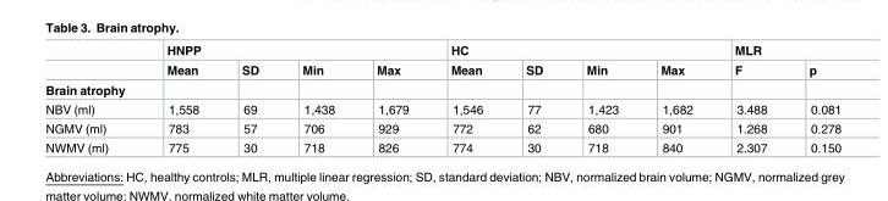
<table><thead><tr><td rowspan="2"></td><td colspan="4">HNPP</td><td colspan="4">HC</td><td colspan="2">MLR</td></tr><tr><td>Mean</td><td>SD</td><td>Min</td><td>Max</td><td>Mean</td><td>SD</td><td>Min</td><td>Max</td><td>F</td><td>p</td></tr></thead><tbody><tr><td colspan="11">Brain atrophy</td></tr><tr><td>NBV (ml)</td><td>1,558</td><td>69</td><td>1,438</td><td>1,679</td><td>1,546</td><td>77</td><td>1,423</td><td>1,682</td><td>3.488</td><td>0.081</td></tr><tr><td>NGMV (ml)</td><td>783</td><td>57</td><td>706</td><td>929</td><td>772</td><td>62</td><td>680</td><td>901</td><td>1.268</td><td>0.278</td></tr><tr><td>NWMV (ml)</td><td>775</td><td>30</td><td>718</td><td>826</td><td>774</td><td>30</td><td>718</td><td>840</td><td>2.307</td><td>0.150</td></tr></tbody></table>